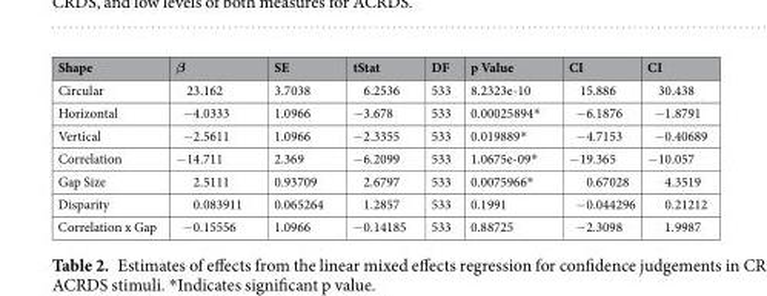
<table><thead><tr><td>Shape</td><td>β</td><td>SE</td><td>tStat</td><td>DF</td><td>p Value</td><td>CI</td><td>CI</td></tr></thead><tbody><tr><td>Circular</td><td>23.162</td><td>3.7038</td><td>6.2536</td><td>533</td><td>8.2323e-10</td><td>15.886</td><td>30.438</td></tr><tr><td>Horizontal</td><td>−4.0333</td><td>1.0966</td><td>−3.678</td><td>533</td><td>0.00025894*</td><td>−6.1876</td><td>−1.8791</td></tr><tr><td>Vertical</td><td>−2.5611</td><td>1.0966</td><td>−2.3355</td><td>533</td><td>0.019889*</td><td>−4.7153</td><td>−0.40689</td></tr><tr><td>Correlation</td><td>−14.711</td><td>2.369</td><td>−6.2099</td><td>533</td><td>1.0675e-09*</td><td>−19.365</td><td>−10.057</td></tr><tr><td>Gap Size</td><td>2.5111</td><td>0.93709</td><td>2.6797</td><td>533</td><td>0.0075966*</td><td>0.67028</td><td>4.3519</td></tr><tr><td>Disparity</td><td>0.083911</td><td>0.065264</td><td>1.2857</td><td>533</td><td>0.1991</td><td>−0.044296</td><td>0.21212</td></tr><tr><td>Correlation x Gap</td><td>−0.15556</td><td>1.0966</td><td>−0.14185</td><td>533</td><td>0.88725</td><td>−2.3098</td><td>1.9987</td></tr></tbody></table>